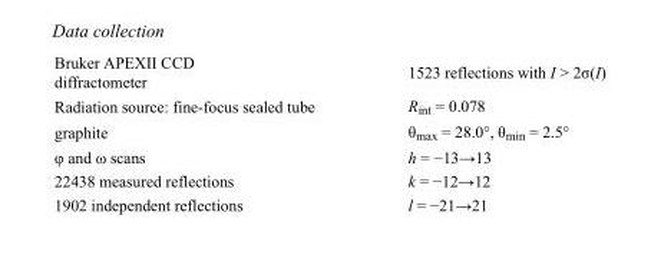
<table><tbody><tr><td>Bruker APEXII CCD diffractometer</td><td>1523 reflections with I &gt; 2σ(I)</td></tr><tr><td>Radiation source: fine-focus sealed tube</td><td>R<sub>int</sub> = 0.078</td></tr><tr><td>graphite</td><td>θ<sub>max</sub> = 28.0°, θ<sub>min</sub> = 2.5°</td></tr><tr><td>φ and ω scans</td><td>h = −13→13</td></tr><tr><td>22438 measured reflections</td><td>k = −12→12</td></tr><tr><td>1902 independent reflections</td><td>l = −21→21</td></tr></tbody></table>